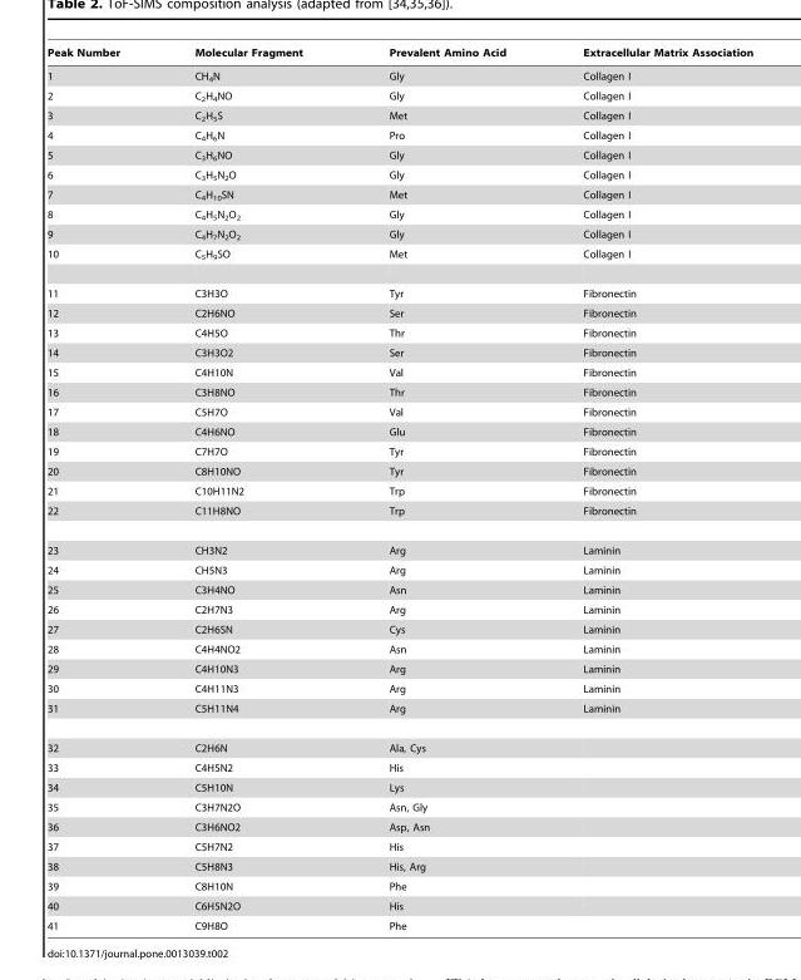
<table><thead><tr><td>Peak Number</td><td>Molecular Fragment</td><td>Prevalent Amino Acid</td><td>Extracellular Matrix Association</td></tr></thead><tbody><tr><td>1</td><td>CH<sub>4</sub>N</td><td>Gly</td><td>Collagen I</td></tr><tr><td>2</td><td>C<sub>2</sub>H<sub>4</sub>NO</td><td>Gly</td><td>Collagen I</td></tr><tr><td>3</td><td>C<sub>2</sub>H<sub>5</sub>S</td><td>Met</td><td>Collagen I</td></tr><tr><td>4</td><td>C<sub>4</sub>H<sub>6</sub>N</td><td>Pro</td><td>Collagen I</td></tr><tr><td>5</td><td>C<sub>3</sub>H<sub>6</sub>NO</td><td>Gly</td><td>Collagen I</td></tr><tr><td>6</td><td>C<sub>3</sub>H<sub>5</sub>N<sub>2</sub>O</td><td>Gly</td><td>Collagen I</td></tr><tr><td>7</td><td>C<sub>4</sub>H<sub>10</sub>SN</td><td>Met</td><td>Collagen I</td></tr><tr><td>8</td><td>C<sub>4</sub>H<sub>5</sub>N<sub>2</sub>O<sub>2</sub></td><td>Gly</td><td>Collagen I</td></tr><tr><td>9</td><td>C<sub>4</sub>H<sub>7</sub>N<sub>2</sub>O<sub>2</sub></td><td>Gly</td><td>Collagen I</td></tr><tr><td>10</td><td>C<sub>5</sub>H<sub>9</sub>SO</td><td>Met</td><td>Collagen I</td></tr><tr><td>11</td><td>C3H3O</td><td>Tyr</td><td>Fibronectin</td></tr><tr><td>12</td><td>C2H6NO</td><td>Ser</td><td>Fibronectin</td></tr><tr><td>13</td><td>C4H5O</td><td>Thr</td><td>Fibronectin</td></tr><tr><td>14</td><td>C3H3O2</td><td>Ser</td><td>Fibronectin</td></tr><tr><td>15</td><td>C4H10N</td><td>Val</td><td>Fibronectin</td></tr><tr><td>16</td><td>C3H8NO</td><td>Thr</td><td>Fibronectin</td></tr><tr><td>17</td><td>C5H7O</td><td>Val</td><td>Fibronectin</td></tr><tr><td>18</td><td>C4H6NO</td><td>Glu</td><td>Fibronectin</td></tr><tr><td>19</td><td>C7H7O</td><td>Tyr</td><td>Fibronectin</td></tr><tr><td>20</td><td>C8H10NO</td><td>Tyr</td><td>Fibronectin</td></tr><tr><td>21</td><td>C10H11N2</td><td>Trp</td><td>Fibronectin</td></tr><tr><td>22</td><td>C11H8NO</td><td>Trp</td><td>Fibronectin</td></tr><tr><td>23</td><td>CH3N2</td><td>Arg</td><td>Laminin</td></tr><tr><td>24</td><td>CH5N3</td><td>Arg</td><td>Laminin</td></tr><tr><td>25</td><td>C3H4NO</td><td>Asn</td><td>Laminin</td></tr><tr><td>26</td><td>C2H7N3</td><td>Arg</td><td>Laminin</td></tr><tr><td>27</td><td>C2H6SN</td><td>Cys</td><td>Laminin</td></tr><tr><td>28</td><td>C4H4NO2</td><td>Asn</td><td>Laminin</td></tr><tr><td>29</td><td>C4H10N3</td><td>Arg</td><td>Laminin</td></tr><tr><td>30</td><td>C4H11N3</td><td>Arg</td><td>Laminin</td></tr><tr><td>31</td><td>C5H11N4</td><td>Arg</td><td>Laminin</td></tr><tr><td>32</td><td>C2H6N</td><td>Ala, Cys</td><td></td></tr><tr><td>33</td><td>C4H5N2</td><td>His</td><td></td></tr><tr><td>34</td><td>C5H10N</td><td>Lys</td><td></td></tr><tr><td>35</td><td>C3H7N2O</td><td>Asn, Gly</td><td></td></tr><tr><td>36</td><td>C3H6NO2</td><td>Asp, Asn</td><td></td></tr><tr><td>37</td><td>C5H7N2</td><td>His</td><td></td></tr><tr><td>38</td><td>C5H8N3</td><td>His, Arg</td><td></td></tr><tr><td>39</td><td>C8H10N</td><td>Phe</td><td></td></tr><tr><td>40</td><td>C6H5N2O</td><td>His</td><td></td></tr><tr><td>41</td><td>C9H8O</td><td>Phe</td><td></td></tr></tbody></table>